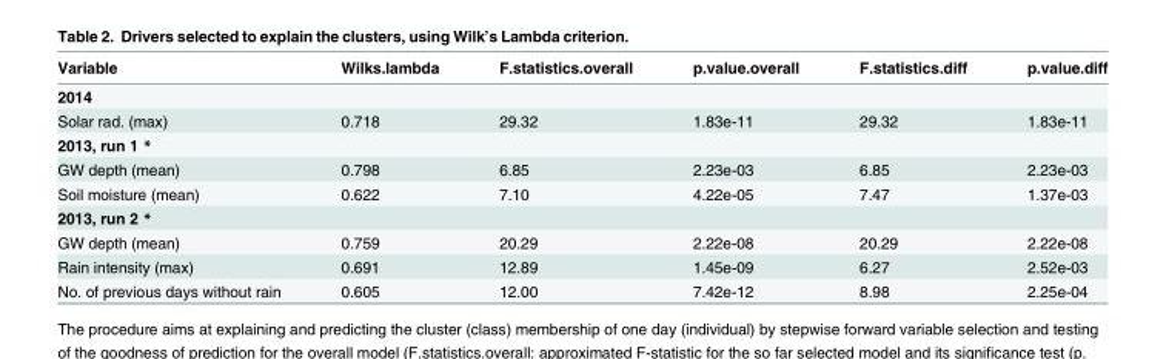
<table><thead><tr><td>Variable</td><td>Wilks.lambda</td><td>F.statistics.overall</td><td>p.value.overall</td><td>F.statistics.diff</td><td>p.value.diff</td></tr></thead><tbody><tr><td colspan="6">2014</td></tr><tr><td>Solar rad. (max)</td><td>0.718</td><td>29.32</td><td>1.83e-11</td><td>29.32</td><td>1.83e-11</td></tr><tr><td colspan="6">2013, run 1 *</td></tr><tr><td>GW depth (mean)</td><td>0.798</td><td>6.85</td><td>2.23e-03</td><td>6.85</td><td>2.23e-03</td></tr><tr><td>Soil moisture (mean)</td><td>0.622</td><td>7.10</td><td>4.22e-05</td><td>7.47</td><td>1.37e-03</td></tr><tr><td colspan="6">2013, run 2 *</td></tr><tr><td>GW depth (mean)</td><td>0.759</td><td>20.29</td><td>2.22e-08</td><td>20.29</td><td>2.22e-08</td></tr><tr><td>Rain intensity (max)</td><td>0.691</td><td>12.89</td><td>1.45e-09</td><td>6.27</td><td>2.52e-03</td></tr><tr><td>No. of previous days without rain</td><td>0.605</td><td>12.00</td><td>7.42e-12</td><td>8.98</td><td>2.25e-04</td></tr></tbody></table>